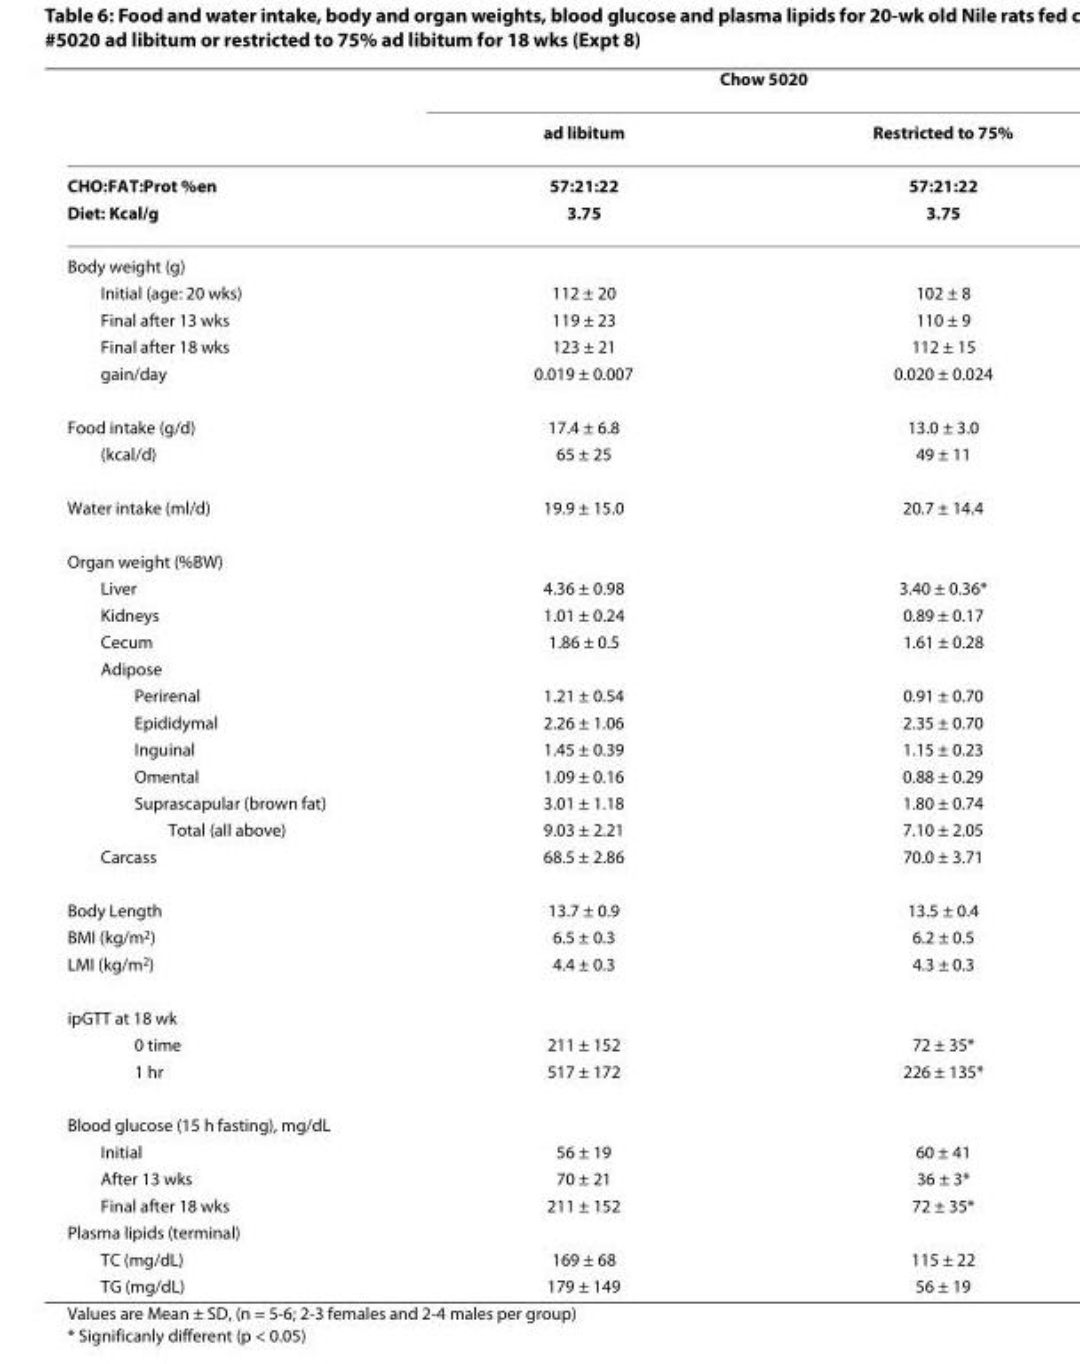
<table><thead><tr><td rowspan="2"></td><td colspan="2">Chow 5020</td></tr><tr><td>ad libitum</td><td>Restricted to 75%</td></tr></thead><tbody><tr><td>CHO:FAT:Prot %en</td><td>57:21:22</td><td>57:21:22</td></tr><tr><td>Diet: Kcal/g</td><td>3.75</td><td>3.75</td></tr><tr><td colspan="3">Body weight (g)</td></tr><tr><td>Initial (age: 20 wks)</td><td>112 ± 20</td><td>102 ± 8</td></tr><tr><td>Final after 13 wks</td><td>119 ± 23</td><td>110 ± 9</td></tr><tr><td>Final after 18 wks</td><td>123 ± 21</td><td>112 ± 15</td></tr><tr><td>gain/day</td><td>0.019 ± 0.007</td><td>0.020 ± 0.024</td></tr><tr><td>Food intake (g/d)</td><td>17.4 ± 6.8</td><td>13.0 ± 3.0</td></tr><tr><td>(kcal/d)</td><td>65 ± 25</td><td>49 ± 11</td></tr><tr><td>Water intake (ml/d)</td><td>19.9 ± 15.0</td><td>20.7 ± 14.4</td></tr><tr><td colspan="3">Organ weight (%BW)</td></tr><tr><td>Liver</td><td>4.36 ± 0.98</td><td>3.40 ± 0.36*</td></tr><tr><td>Kidneys</td><td>1.01 ± 0.24</td><td>0.89 ± 0.17</td></tr><tr><td>Cecum</td><td>1.86 ± 0.5</td><td>1.61 ± 0.28</td></tr><tr><td colspan="3">Adipose</td></tr><tr><td>Perirenal</td><td>1.21 ± 0.54</td><td>0.91 ± 0.70</td></tr><tr><td>Epididymal</td><td>2.26 ± 1.06</td><td>2.35 ± 0.70</td></tr><tr><td>Inguinal</td><td>1.45 ± 0.39</td><td>1.15 ± 0.23</td></tr><tr><td>Omental</td><td>1.09 ± 0.16</td><td>0.88 ± 0.29</td></tr><tr><td>Suprascapular (brown fat)</td><td>3.01 ± 1.18</td><td>1.80 ± 0.74</td></tr><tr><td>Total (all above)</td><td>9.03 ± 2.21</td><td>7.10 ± 2.05</td></tr><tr><td>Carcass</td><td>68.5 ± 2.86</td><td>70.0 ± 3.71</td></tr><tr><td>Body Length</td><td>13.7 ± 0.9</td><td>13.5 ± 0.4</td></tr><tr><td>BMI (kg/m<sup>2</sup>)</td><td>6.5 ± 0.3</td><td>6.2 ± 0.5</td></tr><tr><td>LMI (kg/m<sup>2</sup>)</td><td>4.4 ± 0.3</td><td>4.3 ± 0.3</td></tr><tr><td colspan="3">ipGTT at 18 wk</td></tr><tr><td>0 time</td><td>211 ± 152</td><td>72 ± 35*</td></tr><tr><td>1 hr</td><td>517 ± 172</td><td>226 ± 135*</td></tr><tr><td colspan="3">Blood glucose (15 h fasting), mg/dL</td></tr><tr><td>Initial</td><td>56 ± 19</td><td>60 ± 41</td></tr><tr><td>After 13 wks</td><td>70 ± 21</td><td>36 ± 3*</td></tr><tr><td>Final after 18 wks</td><td>211 ± 152</td><td>72 ± 35*</td></tr><tr><td colspan="3">Plasma lipids (terminal)</td></tr><tr><td>TC (mg/dL)</td><td>169 ± 68</td><td>115 ± 22</td></tr><tr><td>TG (mg/dL)</td><td>179 ± 149</td><td>56 ± 19</td></tr></tbody></table>